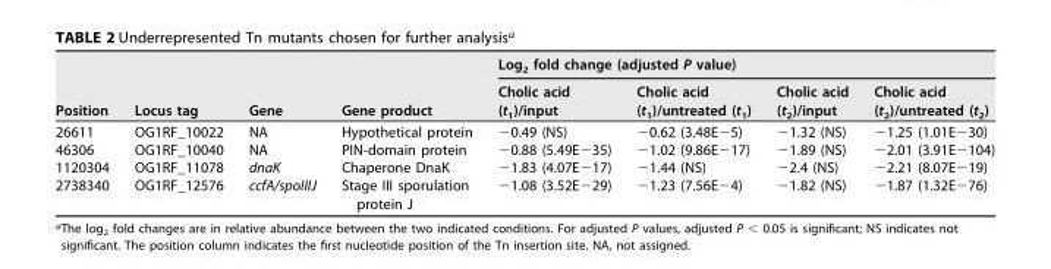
<table><thead><tr><td rowspan="2">Position</td><td rowspan="2">Locus tag</td><td rowspan="2">Gene</td><td rowspan="2">Gene product</td><td colspan="4">Log<sub>2</sub> fold change (adjusted P value)</td></tr><tr><td>Cholic acid (t<sub>1</sub>)/input</td><td>Cholic acid (t<sub>1</sub>)/untreated (t<sub>1</sub>)</td><td>Cholic acid (t<sub>2</sub>)/input</td><td>Cholic acid (t<sub>2</sub>)/untreated (t<sub>2</sub>)</td></tr></thead><tbody><tr><td>26611</td><td>OG1RF_10022</td><td>NA</td><td>Hypothetical protein</td><td>−0.49 (NS)</td><td>−0.62 (3.48E−5)</td><td>−1.32 (NS)</td><td>−1.25 (1.01E−30)</td></tr><tr><td>46306</td><td>OG1RF_10040</td><td>NA</td><td>PIN-domain protein</td><td>−0.88 (5.49E−35)</td><td>−1.02 (9.86E−17)</td><td>−1.89 (NS)</td><td>−2.01 (3.91E−104)</td></tr><tr><td>1120304</td><td>OG1RF_11078</td><td>dnaK</td><td>Chaperone DnaK</td><td>−1.83 (4.07E−17)</td><td>−1.44 (NS)</td><td>−2.4 (NS)</td><td>−2.21 (8.07E−19)</td></tr><tr><td>2738340</td><td>OG1RF_12576</td><td>ccfA/spoIIIJ</td><td>Stage III sporulation protein J</td><td>−1.08 (3.52E−29)</td><td>−1.23 (7.56E−4)</td><td>−1.82 (NS)</td><td>−1.87 (1.32E−76)</td></tr></tbody></table>